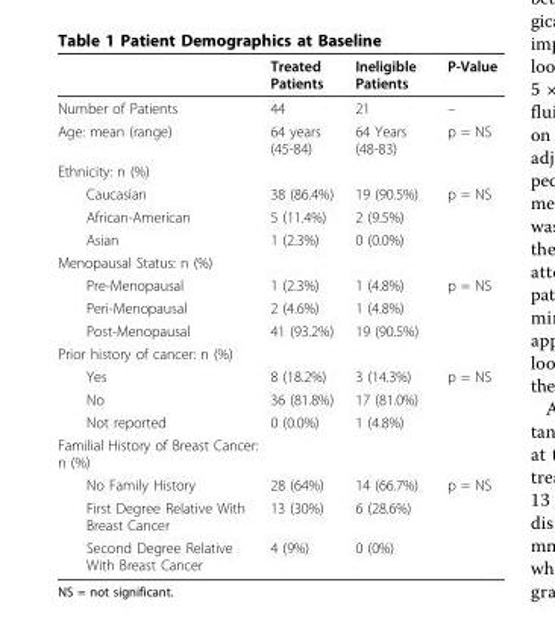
<table><thead><tr><td></td><td>Treated Patients</td><td>Ineligible Patients</td><td>P-Value</td></tr></thead><tbody><tr><td>Number of Patients</td><td>44</td><td>21</td><td>–</td></tr><tr><td>Age: mean (range)</td><td>64 years (45-84)</td><td>64 Years (48-83)</td><td>p = NS</td></tr><tr><td colspan="4">Ethnicity: n (%)</td></tr><tr><td>Caucasian</td><td>38 (86.4%)</td><td>19 (90.5%)</td><td>p = NS</td></tr><tr><td>African-American</td><td>5 (11.4%)</td><td>2 (9.5%)</td><td></td></tr><tr><td>Asian</td><td>1 (2.3%)</td><td>0 (0.0%)</td><td></td></tr><tr><td colspan="4">Menopausal Status: n (%)</td></tr><tr><td>Pre-Menopausal</td><td>1 (2.3%)</td><td>1 (4.8%)</td><td>p = NS</td></tr><tr><td>Peri-Menopausal</td><td>2 (4.6%)</td><td>1 (4.8%)</td><td></td></tr><tr><td>Post-Menopausal</td><td>41 (93.2%)</td><td>19 (90.5%)</td><td></td></tr><tr><td colspan="4">Prior history of cancer: n (%)</td></tr><tr><td>Yes</td><td>8 (18.2%)</td><td>3 (14.3%)</td><td>p = NS</td></tr><tr><td>No</td><td>36 (81.8%)</td><td>17 (81.0%)</td><td></td></tr><tr><td>Not reported</td><td>0 (0.0%)</td><td>1 (4.8%)</td><td></td></tr><tr><td colspan="4">Familial History of Breast Cancer: n (%)</td></tr><tr><td>No Family History</td><td>28 (64%)</td><td>14 (66.7%)</td><td>p = NS</td></tr><tr><td>First Degree Relative With Breast Cancer</td><td>13 (30%)</td><td>6 (28.6%)</td><td></td></tr><tr><td>Second Degree Relative With Breast Cancer</td><td>4 (9%)</td><td>0 (0%)</td><td></td></tr></tbody></table>